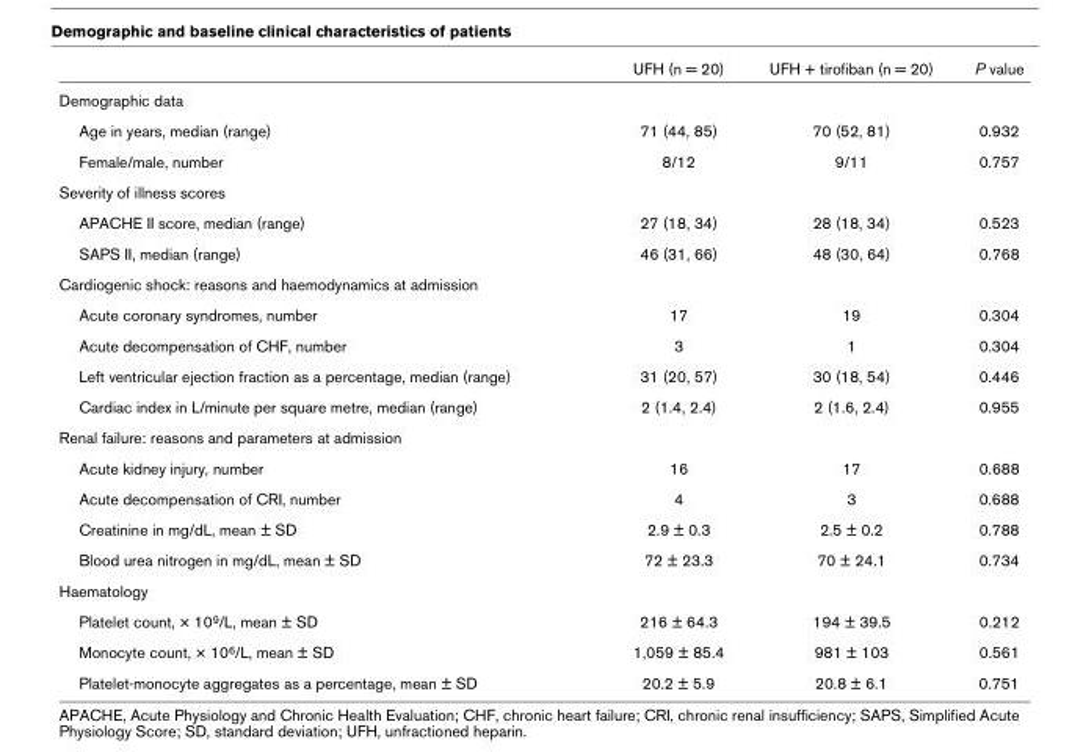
<table><thead><tr><td></td><td>UFH (n = 20)</td><td>UFH + tirofiban (n = 20)</td><td>P value</td></tr></thead><tbody><tr><td colspan="4">Demographic data</td></tr><tr><td>Age in years, median (range)</td><td>71 (44, 85)</td><td>70 (52, 81)</td><td>0.932</td></tr><tr><td>Female/male, number</td><td>8/12</td><td>9/11</td><td>0.757</td></tr><tr><td colspan="4">Severity of illness scores</td></tr><tr><td>APACHE II score, median (range)</td><td>27 (18, 34)</td><td>28 (18, 34)</td><td>0.523</td></tr><tr><td>SAPS II, median (range)</td><td>46 (31, 66)</td><td>48 (30, 64)</td><td>0.768</td></tr><tr><td colspan="4">Cardiogenic shock: reasons and haemodynamics at admission</td></tr><tr><td>Acute coronary syndromes, number</td><td>17</td><td>19</td><td>0.304</td></tr><tr><td>Acute decompensation of CHF, number</td><td>3</td><td>1</td><td>0.304</td></tr><tr><td>Left ventricular ejection fraction as a percentage, median (range)</td><td>31 (20, 57)</td><td>30 (18, 54)</td><td>0.446</td></tr><tr><td>Cardiac index in L/minute per square metre, median (range)</td><td>2 (1.4, 2.4)</td><td>2 (1.6, 2.4)</td><td>0.955</td></tr><tr><td colspan="4">Renal failure: reasons and parameters at admission</td></tr><tr><td>Acute kidney injury, number</td><td>16</td><td>17</td><td>0.688</td></tr><tr><td>Acute decompensation of CRI, number</td><td>4</td><td>3</td><td>0.688</td></tr><tr><td>Creatinine in mg/dL, mean ± SD</td><td>2.9 ± 0.3</td><td>2.5 ± 0.2</td><td>0.788</td></tr><tr><td>Blood urea nitrogen in mg/dL, mean ± SD</td><td>72 ± 23.3</td><td>70 ± 24.1</td><td>0.734</td></tr><tr><td colspan="4">Haematology</td></tr><tr><td>Platelet count, × 10<sup>9</sup>/L, mean ± SD</td><td>216 ± 64.3</td><td>194 ± 39.5</td><td>0.212</td></tr><tr><td>Monocyte count, × 10<sup>6</sup>/L, mean ± SD</td><td>1,059 ± 85.4</td><td>981 ± 103</td><td>0.561</td></tr><tr><td>Platelet-monocyte aggregates as a percentage, mean ± SD</td><td>20.2 ± 5.9</td><td>20.8 ± 6.1</td><td>0.751</td></tr></tbody></table>